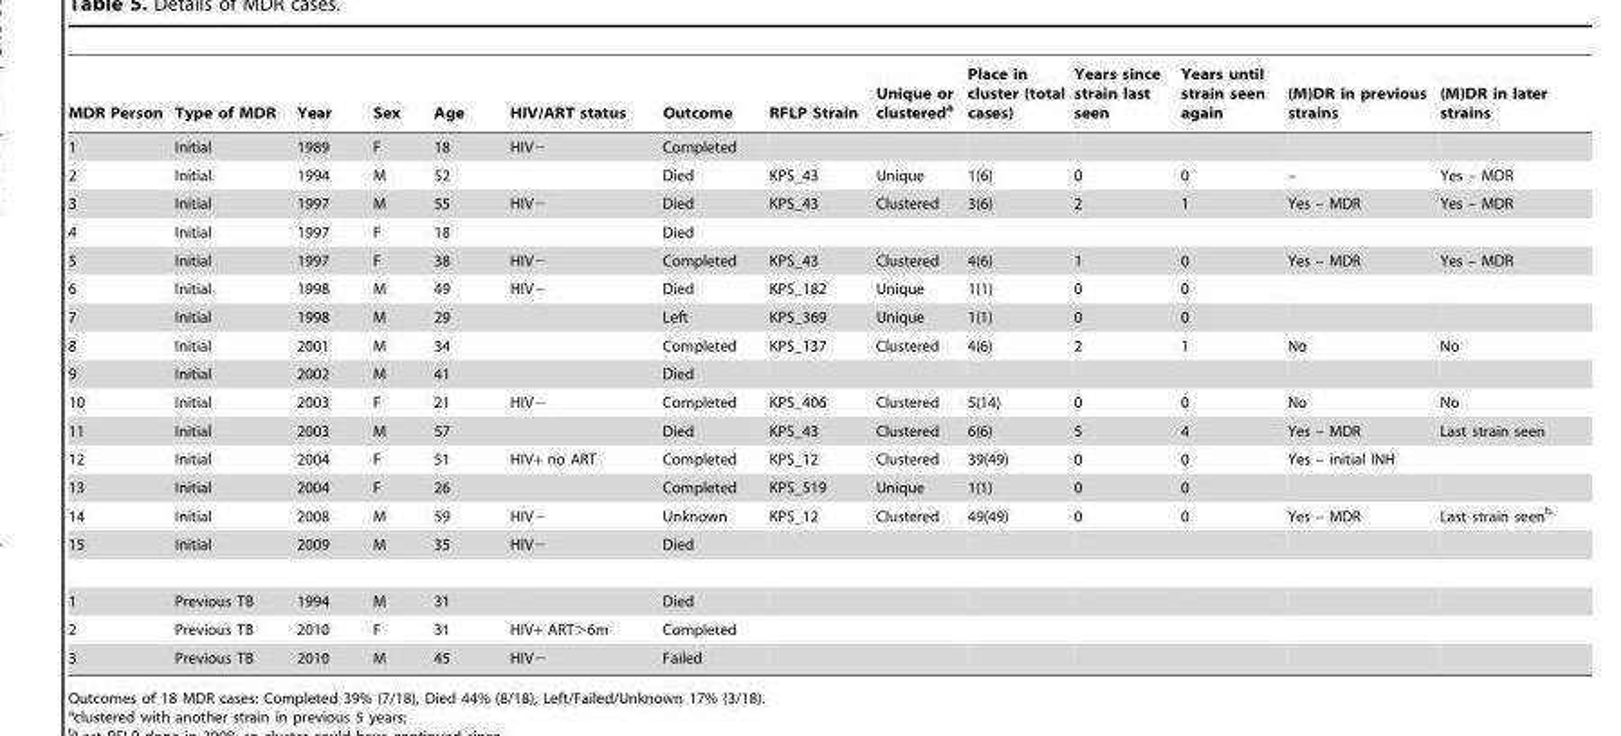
<table><thead><tr><td>MDR Person</td><td>Type of MDR</td><td>Year</td><td>Sex</td><td>Age</td><td>HIV/ART status</td><td>Outcome</td><td>RFLP Strain</td><td>Unique or clustered<sup>a</sup></td><td>Place in cluster (total cases)</td><td>Years since strain last seen</td><td>Years until strain seen again</td><td>(M)DR in previous strains</td><td>(M)DR in later strains</td></tr></thead><tbody><tr><td>1</td><td>Initial</td><td>1989</td><td>F</td><td>18</td><td>HIV−</td><td>Completed</td><td></td><td></td><td></td><td></td><td></td><td></td><td></td></tr><tr><td>2</td><td>Initial</td><td>1994</td><td>M</td><td>52</td><td></td><td>Died</td><td>KPS_43</td><td>Unique</td><td>1(6)</td><td>0</td><td>0</td><td>–</td><td>Yes – MDR</td></tr><tr><td>3</td><td>Initial</td><td>1997</td><td>M</td><td>55</td><td>HIV−</td><td>Died</td><td>KPS_43</td><td>Clustered</td><td>3(6)</td><td>2</td><td>1</td><td>Yes – MDR</td><td>Yes – MDR</td></tr><tr><td>4</td><td>Initial</td><td>1997</td><td>F</td><td>18</td><td></td><td>Died</td><td></td><td></td><td></td><td></td><td></td><td></td><td></td></tr><tr><td>5</td><td>Initial</td><td>1997</td><td>F</td><td>38</td><td>HIV−</td><td>Completed</td><td>KPS_43</td><td>Clustered</td><td>4(6)</td><td>1</td><td>0</td><td>Yes – MDR</td><td>Yes – MDR</td></tr><tr><td>6</td><td>Initial</td><td>1998</td><td>M</td><td>49</td><td>HIV−</td><td>Died</td><td>KPS_182</td><td>Unique</td><td>1(1)</td><td>0</td><td>0</td><td></td><td></td></tr><tr><td>7</td><td>Initial</td><td>1998</td><td>M</td><td>29</td><td></td><td>Left</td><td>KPS_369</td><td>Unique</td><td>1(1)</td><td>0</td><td>0</td><td></td><td></td></tr><tr><td>8</td><td>Initial</td><td>2001</td><td>M</td><td>34</td><td></td><td>Completed</td><td>KPS_137</td><td>Clustered</td><td>4(6)</td><td>2</td><td>1</td><td>No</td><td>No</td></tr><tr><td>9</td><td>Initial</td><td>2002</td><td>M</td><td>41</td><td></td><td>Died</td><td></td><td></td><td></td><td></td><td></td><td></td><td></td></tr><tr><td>10</td><td>Initial</td><td>2003</td><td>F</td><td>21</td><td>HIV−</td><td>Completed</td><td>KPS_406</td><td>Clustered</td><td>5(14)</td><td>0</td><td>0</td><td>No</td><td>No</td></tr><tr><td>11</td><td>Initial</td><td>2003</td><td>M</td><td>57</td><td></td><td>Died</td><td>KPS_43</td><td>Clustered</td><td>6(6)</td><td>5</td><td>4</td><td>Yes – MDR</td><td>Last strain seen</td></tr><tr><td>12</td><td>Initial</td><td>2004</td><td>F</td><td>51</td><td>HIV+ no ART</td><td>Completed</td><td>KPS_12</td><td>Clustered</td><td>39(49)</td><td>0</td><td>0</td><td>Yes – initial INH</td><td></td></tr><tr><td>13</td><td>Initial</td><td>2004</td><td>F</td><td>26</td><td></td><td>Completed</td><td>KPS_519</td><td>Unique</td><td>1(1)</td><td>0</td><td>0</td><td></td><td></td></tr><tr><td>14</td><td>Initial</td><td>2008</td><td>M</td><td>59</td><td>HIV−</td><td>Unknown</td><td>KPS_12</td><td>Clustered</td><td>49(49)</td><td>0</td><td>0</td><td>Yes – MDR</td><td>Last strain seen<sup>b</sup></td></tr><tr><td>15</td><td>Initial</td><td>2009</td><td>M</td><td>35</td><td>HIV−</td><td>Died</td><td></td><td></td><td></td><td></td><td></td><td></td><td></td></tr><tr><td>1</td><td>Previous TB</td><td>1994</td><td>M</td><td>31</td><td></td><td>Died</td><td></td><td></td><td></td><td></td><td></td><td></td><td></td></tr><tr><td>2</td><td>Previous TB</td><td>2010</td><td>F</td><td>31</td><td>HIV+ ART&gt;6m</td><td>Completed</td><td></td><td></td><td></td><td></td><td></td><td></td><td></td></tr><tr><td>3</td><td>Previous TB</td><td>2010</td><td>M</td><td>45</td><td>HIV−</td><td>Failed</td><td></td><td></td><td></td><td></td><td></td><td></td><td></td></tr></tbody></table>